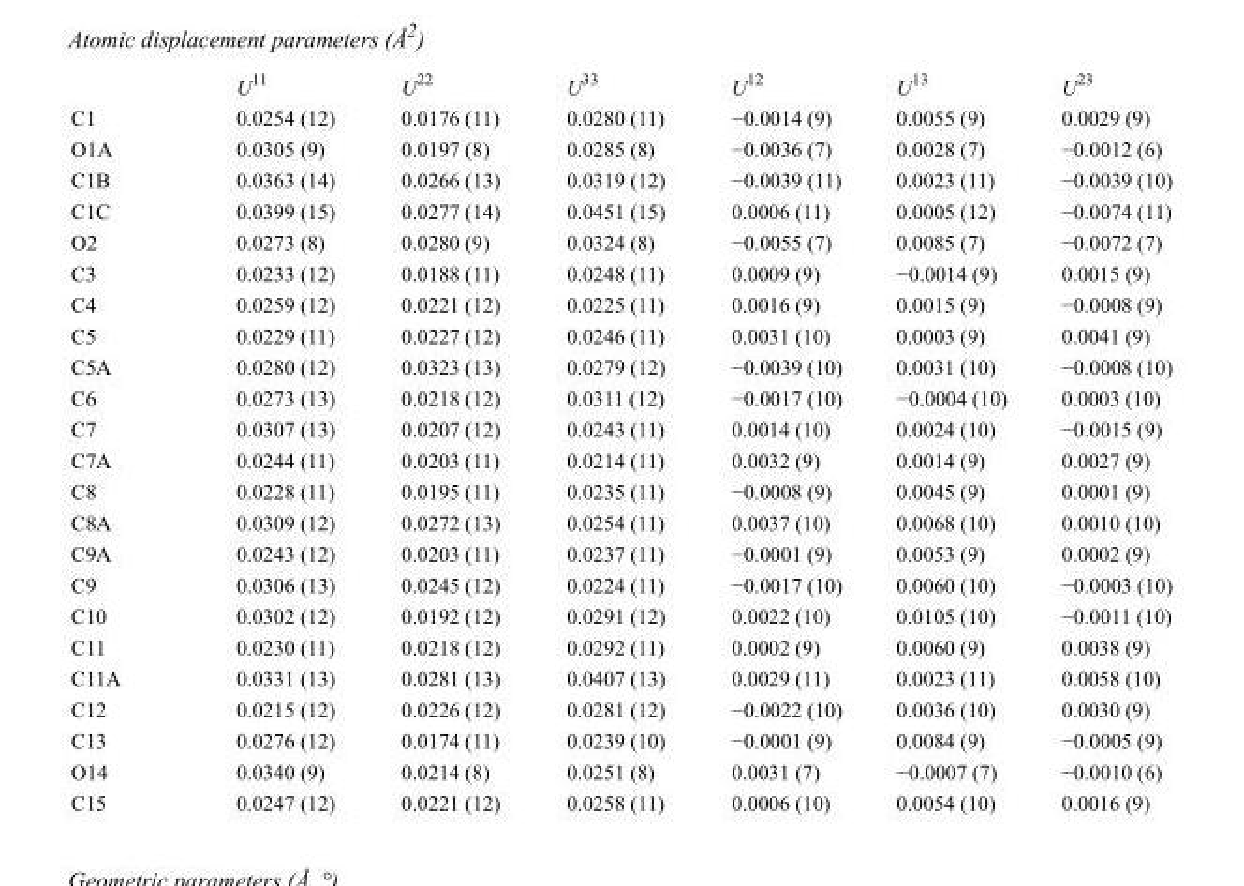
<table><thead><tr><td></td><td>U<sup>11</sup></td><td>U<sup>22</sup></td><td>U<sup>33</sup></td><td>U<sup>12</sup></td><td>U<sup>13</sup></td><td>U<sup>23</sup></td></tr></thead><tbody><tr><td>C1</td><td>0.0254 (12)</td><td>0.0176 (11)</td><td>0.0280 (11)</td><td>−0.0014 (9)</td><td>0.0055 (9)</td><td>0.0029 (9)</td></tr><tr><td>O1A</td><td>0.0305 (9)</td><td>0.0197 (8)</td><td>0.0285 (8)</td><td>−0.0036 (7)</td><td>0.0028 (7)</td><td>−0.0012 (6)</td></tr><tr><td>C1B</td><td>0.0363 (14)</td><td>0.0266 (13)</td><td>0.0319 (12)</td><td>−0.0039 (11)</td><td>0.0023 (11)</td><td>−0.0039 (10)</td></tr><tr><td>C1C</td><td>0.0399 (15)</td><td>0.0277 (14)</td><td>0.0451 (15)</td><td>0.0006 (11)</td><td>0.0005 (12)</td><td>−0.0074 (11)</td></tr><tr><td>O2</td><td>0.0273 (8)</td><td>0.0280 (9)</td><td>0.0324 (8)</td><td>−0.0055 (7)</td><td>0.0085 (7)</td><td>−0.0072 (7)</td></tr><tr><td>C3</td><td>0.0233 (12)</td><td>0.0188 (11)</td><td>0.0248 (11)</td><td>0.0009 (9)</td><td>−0.0014 (9)</td><td>0.0015 (9)</td></tr><tr><td>C4</td><td>0.0259 (12)</td><td>0.0221 (12)</td><td>0.0225 (11)</td><td>0.0016 (9)</td><td>0.0015 (9)</td><td>−0.0008 (9)</td></tr><tr><td>C5</td><td>0.0229 (11)</td><td>0.0227 (12)</td><td>0.0246 (11)</td><td>0.0031 (10)</td><td>0.0003 (9)</td><td>0.0041 (9)</td></tr><tr><td>C5A</td><td>0.0280 (12)</td><td>0.0323 (13)</td><td>0.0279 (12)</td><td>−0.0039 (10)</td><td>0.0031 (10)</td><td>−0.0008 (10)</td></tr><tr><td>C6</td><td>0.0273 (13)</td><td>0.0218 (12)</td><td>0.0311 (12)</td><td>−0.0017 (10)</td><td>−0.0004 (10)</td><td>0.0003 (10)</td></tr><tr><td>C7</td><td>0.0307 (13)</td><td>0.0207 (12)</td><td>0.0243 (11)</td><td>0.0014 (10)</td><td>0.0024 (10)</td><td>−0.0015 (9)</td></tr><tr><td>C7A</td><td>0.0244 (11)</td><td>0.0203 (11)</td><td>0.0214 (11)</td><td>0.0032 (9)</td><td>0.0014 (9)</td><td>0.0027 (9)</td></tr><tr><td>C8</td><td>0.0228 (11)</td><td>0.0195 (11)</td><td>0.0235 (11)</td><td>−0.0008 (9)</td><td>0.0045 (9)</td><td>0.0001 (9)</td></tr><tr><td>C8A</td><td>0.0309 (12)</td><td>0.0272 (13)</td><td>0.0254 (11)</td><td>0.0037 (10)</td><td>0.0068 (10)</td><td>0.0010 (10)</td></tr><tr><td>C9A</td><td>0.0243 (12)</td><td>0.0203 (11)</td><td>0.0237 (11)</td><td>−0.0001 (9)</td><td>0.0053 (9)</td><td>0.0002 (9)</td></tr><tr><td>C9</td><td>0.0306 (13)</td><td>0.0245 (12)</td><td>0.0224 (11)</td><td>−0.0017 (10)</td><td>0.0060 (10)</td><td>−0.0003 (10)</td></tr><tr><td>C10</td><td>0.0302 (12)</td><td>0.0192 (12)</td><td>0.0291 (12)</td><td>0.0022 (10)</td><td>0.0105 (10)</td><td>−0.0011 (10)</td></tr><tr><td>C11</td><td>0.0230 (11)</td><td>0.0218 (12)</td><td>0.0292 (11)</td><td>0.0002 (9)</td><td>0.0060 (9)</td><td>0.0038 (9)</td></tr><tr><td>C11A</td><td>0.0331 (13)</td><td>0.0281 (13)</td><td>0.0407 (13)</td><td>0.0029 (11)</td><td>0.0023 (11)</td><td>0.0058 (10)</td></tr><tr><td>C12</td><td>0.0215 (12)</td><td>0.0226 (12)</td><td>0.0281 (12)</td><td>−0.0022 (10)</td><td>0.0036 (10)</td><td>0.0030 (9)</td></tr><tr><td>C13</td><td>0.0276 (12)</td><td>0.0174 (11)</td><td>0.0239 (10)</td><td>−0.0001 (9)</td><td>0.0084 (9)</td><td>−0.0005 (9)</td></tr><tr><td>O14</td><td>0.0340 (9)</td><td>0.0214 (8)</td><td>0.0251 (8)</td><td>0.0031 (7)</td><td>−0.0007 (7)</td><td>−0.0010 (6)</td></tr><tr><td>C15</td><td>0.0247 (12)</td><td>0.0221 (12)</td><td>0.0258 (11)</td><td>0.0006 (10)</td><td>0.0054 (10)</td><td>0.0016 (9)</td></tr></tbody></table>